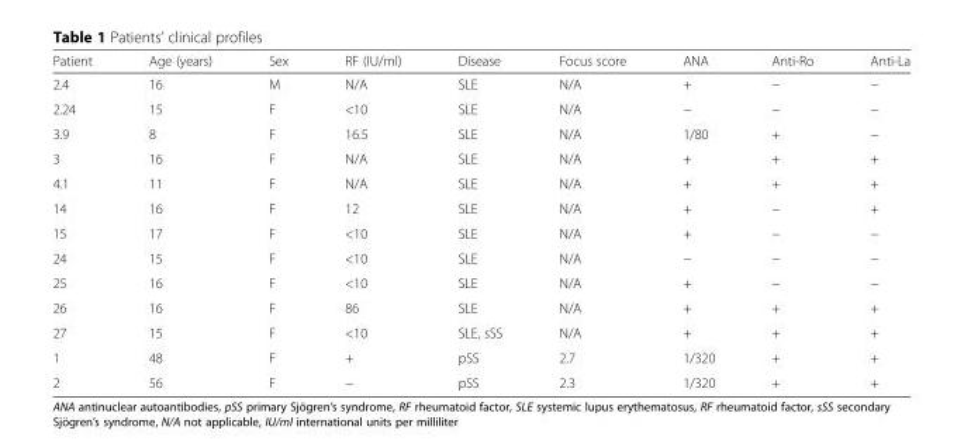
<table><thead><tr><td>Patient</td><td>Age (years)</td><td>Sex</td><td>RF (IU/ml)</td><td>Disease</td><td>Focus score</td><td>ANA</td><td>Anti-Ro</td><td>Anti-La</td></tr></thead><tbody><tr><td>2.4</td><td>16</td><td>M</td><td>N/A</td><td>SLE</td><td>N/A</td><td>+</td><td>−</td><td>−</td></tr><tr><td>2.24</td><td>15</td><td>F</td><td>&lt;10</td><td>SLE</td><td>N/A</td><td>−</td><td>−</td><td>−</td></tr><tr><td>3.9</td><td>8</td><td>F</td><td>16.5</td><td>SLE</td><td>N/A</td><td>1/80</td><td>+</td><td>−</td></tr><tr><td>3</td><td>16</td><td>F</td><td>N/A</td><td>SLE</td><td>N/A</td><td>+</td><td>+</td><td>+</td></tr><tr><td>4.1</td><td>11</td><td>F</td><td>N/A</td><td>SLE</td><td>N/A</td><td>+</td><td>+</td><td>+</td></tr><tr><td>14</td><td>16</td><td>F</td><td>12</td><td>SLE</td><td>N/A</td><td>+</td><td>−</td><td>+</td></tr><tr><td>15</td><td>17</td><td>F</td><td>&lt;10</td><td>SLE</td><td>N/A</td><td>+</td><td>−</td><td>−</td></tr><tr><td>24</td><td>15</td><td>F</td><td>&lt;10</td><td>SLE</td><td>N/A</td><td>−</td><td>−</td><td>−</td></tr><tr><td>25</td><td>16</td><td>F</td><td>&lt;10</td><td>SLE</td><td>N/A</td><td>+</td><td>−</td><td>−</td></tr><tr><td>26</td><td>16</td><td>F</td><td>86</td><td>SLE</td><td>N/A</td><td>+</td><td>+</td><td>+</td></tr><tr><td>27</td><td>15</td><td>F</td><td>&lt;10</td><td>SLE, sSS</td><td>N/A</td><td>+</td><td>+</td><td>+</td></tr><tr><td>1</td><td>48</td><td>F</td><td>+</td><td>pSS</td><td>2.7</td><td>1/320</td><td>+</td><td>+</td></tr><tr><td>2</td><td>56</td><td>F</td><td>−</td><td>pSS</td><td>2.3</td><td>1/320</td><td>+</td><td>+</td></tr></tbody></table>